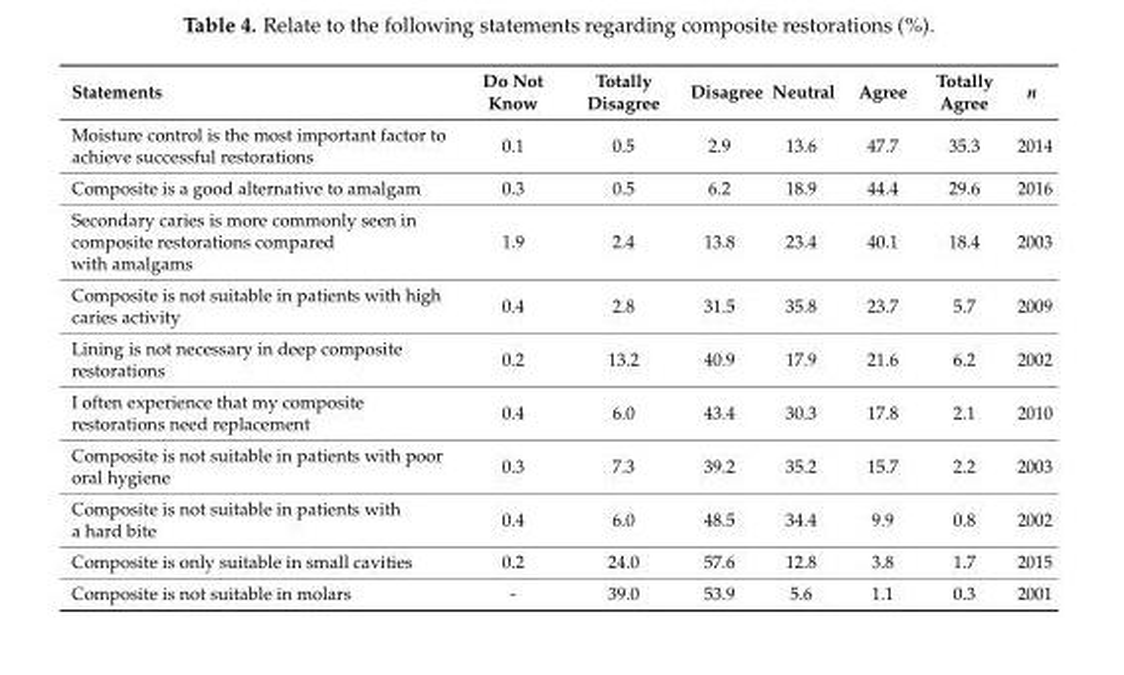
<table><thead><tr><td>Statements</td><td>Do Not Know</td><td>Totally Disagree</td><td>Disagree</td><td>Neutral</td><td>Agree</td><td>Totally Agree</td><td>n</td></tr></thead><tbody><tr><td>Moisture control is the most important factor to achieve successful restorations</td><td>0.1</td><td>0.5</td><td>2.9</td><td>13.6</td><td>47.7</td><td>35.3</td><td>2014</td></tr><tr><td>Composite is a good alternative to amalgam</td><td>0.3</td><td>0.5</td><td>6.2</td><td>18.9</td><td>44.4</td><td>29.6</td><td>2016</td></tr><tr><td>Secondary caries is more commonly seen in composite restorations compared with amalgams</td><td>1.9</td><td>2.4</td><td>13.8</td><td>23.4</td><td>40.1</td><td>18.4</td><td>2003</td></tr><tr><td>Composite is not suitable in patients with high caries activity</td><td>0.4</td><td>2.8</td><td>31.5</td><td>35.8</td><td>23.7</td><td>5.7</td><td>2009</td></tr><tr><td>Lining is not necessary in deep composite restorations</td><td>0.2</td><td>13.2</td><td>40.9</td><td>17.9</td><td>21.6</td><td>6.2</td><td>2002</td></tr><tr><td>I often experience that my composite restorations need replacement</td><td>0.4</td><td>6.0</td><td>43.4</td><td>30.3</td><td>17.8</td><td>2.1</td><td>2010</td></tr><tr><td>Composite is not suitable in patients with poor oral hygiene</td><td>0.3</td><td>7.3</td><td>39.2</td><td>35.2</td><td>15.7</td><td>2.2</td><td>2003</td></tr><tr><td>Composite is not suitable in patients with a hard bite</td><td>0.4</td><td>6.0</td><td>48.5</td><td>34.4</td><td>9.9</td><td>0.8</td><td>2002</td></tr><tr><td>Composite is only suitable in small cavities</td><td>0.2</td><td>24.0</td><td>57.6</td><td>12.8</td><td>3.8</td><td>1.7</td><td>2015</td></tr><tr><td>Composite is not suitable in molars</td><td>-</td><td>39.0</td><td>53.9</td><td>5.6</td><td>1.1</td><td>0.3</td><td>2001</td></tr></tbody></table>